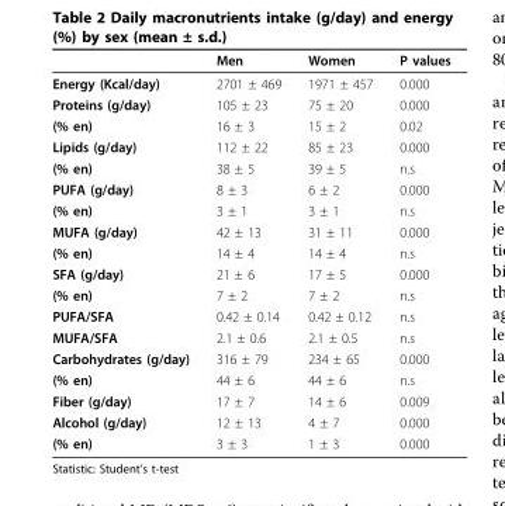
<table><thead><tr><td></td><td>Men</td><td>Women</td><td>P values</td></tr></thead><tbody><tr><td>Energy (Kcal/day)</td><td>2701 ± 469</td><td>1971 ± 457</td><td>0.000</td></tr><tr><td>Proteins (g/day)</td><td>105 ± 23</td><td>75 ± 20</td><td>0.000</td></tr><tr><td>(% en)</td><td>16 ± 3</td><td>15 ± 2</td><td>0.02</td></tr><tr><td>Lipids (g/day)</td><td>112 ± 22</td><td>85 ± 23</td><td>0.000</td></tr><tr><td>(% en)</td><td>38 ± 5</td><td>39 ± 5</td><td>n.s</td></tr><tr><td>PUFA (g/day)</td><td>8 ± 3</td><td>6 ± 2</td><td>0.000</td></tr><tr><td>(% en)</td><td>3 ± 1</td><td>3 ± 1</td><td>n.s</td></tr><tr><td>MUFA (g/day)</td><td>42 ± 13</td><td>31 ± 11</td><td>0.000</td></tr><tr><td>(% en)</td><td>14 ± 4</td><td>14 ± 4</td><td>n.s</td></tr><tr><td>SFA (g/day)</td><td>21 ± 6</td><td>17 ± 5</td><td>0.000</td></tr><tr><td>(% en)</td><td>7 ± 2</td><td>7 ± 2</td><td>n.s</td></tr><tr><td>PUFA/SFA</td><td>0.42 ± 0.14</td><td>0.42 ± 0.12</td><td>n.s</td></tr><tr><td>MUFA/SFA</td><td>2.1 ± 0.6</td><td>2.1 ± 0.5</td><td>n.s</td></tr><tr><td>Carbohydrates (g/day)</td><td>316 ± 79</td><td>234 ± 65</td><td>0.000</td></tr><tr><td>(% en)</td><td>44 ± 6</td><td>44 ± 6</td><td>n.s</td></tr><tr><td>Fiber (g/day)</td><td>17 ± 7</td><td>14 ± 6</td><td>0.009</td></tr><tr><td>Alcohol (g/day)</td><td>12 ± 13</td><td>4 ± 7</td><td>0.000</td></tr><tr><td>(% en)</td><td>3 ± 3</td><td>1 ± 3</td><td>0.000</td></tr></tbody></table>